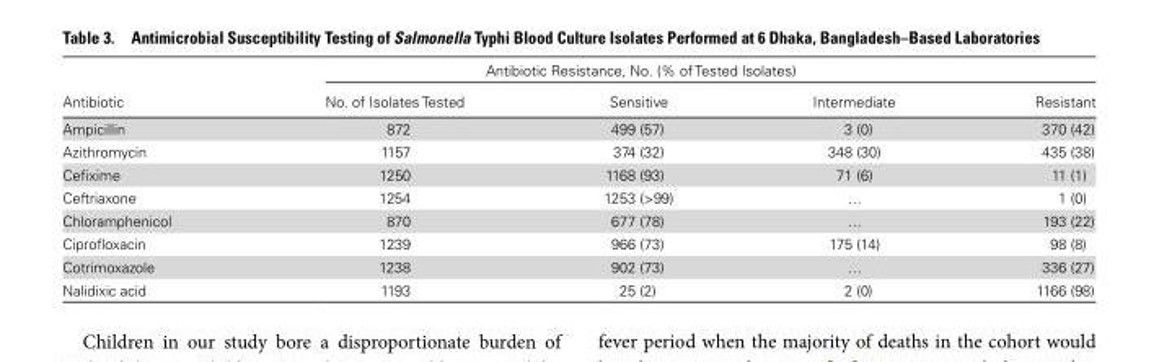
<table><tbody><tr><td rowspan="2">Antibiotic</td><td colspan="4">Antibiotic Resistance, No. (% of Tested Isolates)</td></tr><tr><td>No. of Isolates Tested</td><td>Sensitive</td><td>Intermediate</td><td>Resistant</td></tr><tr><td>Ampicillin</td><td>872</td><td>499 (57)</td><td>3 (0)</td><td>370 (42)</td></tr><tr><td>Azithromycin</td><td>1157</td><td>374 (32)</td><td>348 (30)</td><td>435 (38)</td></tr><tr><td>Cefixime</td><td>1250</td><td>1168 (93)</td><td>71 (6)</td><td>11 (1)</td></tr><tr><td>Ceftriaxone</td><td>1254</td><td>1253 (&gt;99)</td><td>…</td><td>1 (0)</td></tr><tr><td>Chloramphenicol</td><td>870</td><td>677 (78)</td><td>…</td><td>193 (22)</td></tr><tr><td>Ciprofloxacin</td><td>1239</td><td>966 (73)</td><td>175 (14)</td><td>98 (8)</td></tr><tr><td>Cotrimoxazole</td><td>1238</td><td>902 (73)</td><td>…</td><td>336 (27)</td></tr><tr><td>Nalidixic acid</td><td>1193</td><td>25 (2)</td><td>2 (0)</td><td>1166 (98)</td></tr></tbody></table>